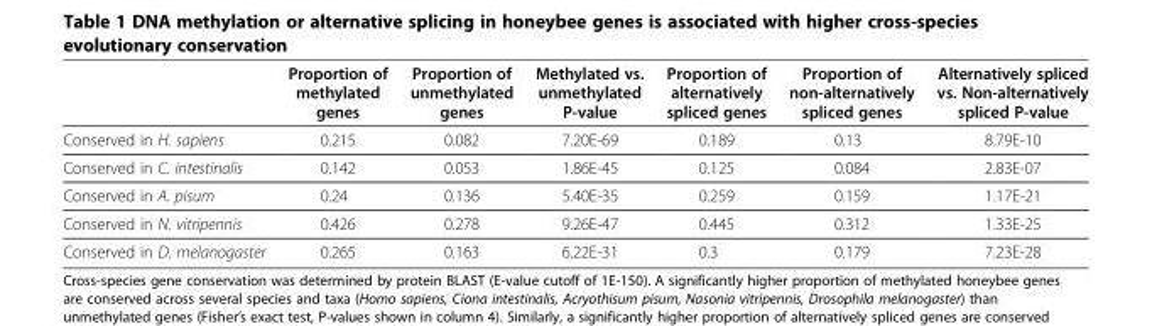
<table><thead><tr><td></td><td>Proportion of methylated genes</td><td>Proportion of unmethylated genes</td><td>Methylated vs. unmethylated P-value</td><td>Proportion of alternatively spliced genes</td><td>Proportion of non-alternatively spliced genes</td><td>Alternatively spliced vs. Non-alternatively spliced P-value</td></tr></thead><tbody><tr><td>Conserved in H. sapiens</td><td>0.215</td><td>0.082</td><td>7.20E-69</td><td>0.189</td><td>0.13</td><td>8.79E-10</td></tr><tr><td>Conserved in C. intestinalis</td><td>0.142</td><td>0.053</td><td>1.86E-45</td><td>0.125</td><td>0.084</td><td>2.83E-07</td></tr><tr><td>Conserved in A. pisum</td><td>0.24</td><td>0.136</td><td>5.40E-35</td><td>0.259</td><td>0.159</td><td>1.17E-21</td></tr><tr><td>Conserved in N. vitripennis</td><td>0.426</td><td>0.278</td><td>9.26E-47</td><td>0.445</td><td>0.312</td><td>1.33E-25</td></tr><tr><td>Conserved in D. melanogaster</td><td>0.265</td><td>0.163</td><td>6.22E-31</td><td>0.3</td><td>0.179</td><td>7.23E-28</td></tr></tbody></table>